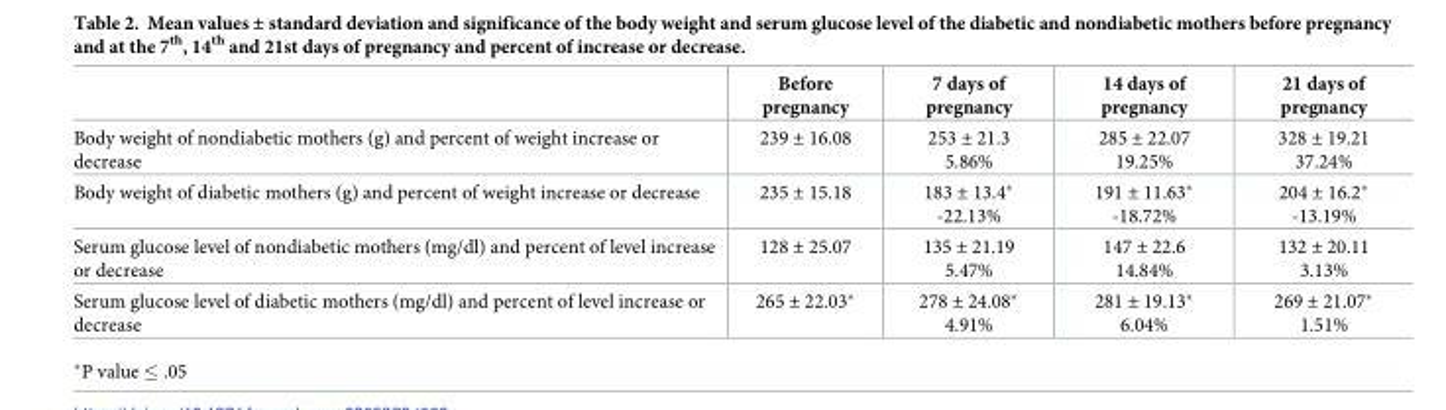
<table><thead><tr><td></td><td>Before pregnancy</td><td>7 days of pregnancy</td><td>14 days of pregnancy</td><td>21 days of pregnancy</td></tr></thead><tbody><tr><td>Body weight of nondiabetic mothers (g) and percent of weight increase or decrease</td><td>239 ± 16.08</td><td>253 ± 21.3 5.86%</td><td>285 ± 22.07 19.25%</td><td>328 ± 19.21 37.24%</td></tr><tr><td>Body weight of diabetic mothers (g) and percent of weight increase or decrease</td><td>235 ± 15.18</td><td>183 ± 13.4* -22.13%</td><td>191 ± 11.63* -18.72%</td><td>204 ± 16.2* -13.19%</td></tr><tr><td>Serum glucose level of nondiabetic mothers (mg/dl) and percent of level increase or decrease</td><td>128 ± 25.07</td><td>135 ± 21.19 5.47%</td><td>147 ± 22.6 14.84%</td><td>132 ± 20.11 3.13%</td></tr><tr><td>Serum glucose level of diabetic mothers (mg/dl) and percent of level increase or decrease</td><td>265 ± 22.03*</td><td>278 ± 24.08* 4.91%</td><td>281 ± 19.13* 6.04%</td><td>269 ± 21.07* 1.51%</td></tr></tbody></table>